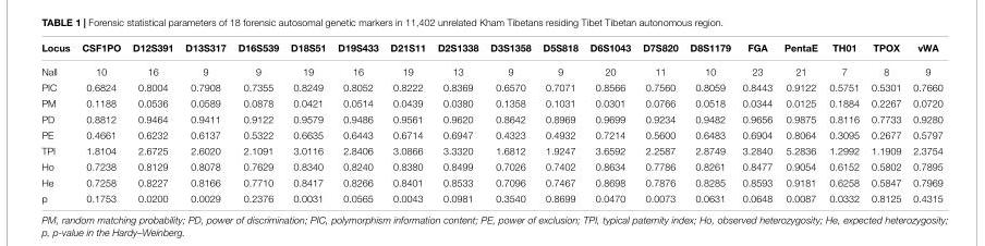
<table><thead><tr><td>Locus</td><td>CSF1PO</td><td>D12S391</td><td>D13S317</td><td>D16S539</td><td>D18S51</td><td>D19S433</td><td>D21S11</td><td>D2S1338</td><td>D3S1358</td><td>D5S818</td><td>D6S1043</td><td>D7S820</td><td>D8S1179</td><td>FGA</td><td>PentaE</td><td>TH01</td><td>TPOX</td><td>vWA</td></tr></thead><tbody><tr><td>Nall</td><td>10</td><td>16</td><td>9</td><td>9</td><td>19</td><td>16</td><td>19</td><td>13</td><td>9</td><td>9</td><td>20</td><td>11</td><td>10</td><td>23</td><td>21</td><td>7</td><td>8</td><td>9</td></tr><tr><td>PIC</td><td>0.6824</td><td>0.8004</td><td>0.7908</td><td>0.7355</td><td>0.8249</td><td>0.8052</td><td>0.8222</td><td>0.8369</td><td>0.6570</td><td>0.7071</td><td>0.8566</td><td>0.7560</td><td>0.8059</td><td>0.8443</td><td>0.9122</td><td>0.5751</td><td>0.5301</td><td>0.7660</td></tr><tr><td>PM</td><td>0.1188</td><td>0.0536</td><td>0.0589</td><td>0.0878</td><td>0.0421</td><td>0.0514</td><td>0.0439</td><td>0.0380</td><td>0.1358</td><td>0.1031</td><td>0.0301</td><td>0.0766</td><td>0.0518</td><td>0.0344</td><td>0.0125</td><td>0.1884</td><td>0.2267</td><td>0.0720</td></tr><tr><td>PD</td><td>0.8812</td><td>0.9464</td><td>0.9411</td><td>0.9122</td><td>0.9579</td><td>0.9486</td><td>0.9561</td><td>0.9620</td><td>0.8642</td><td>0.8969</td><td>0.9699</td><td>0.9234</td><td>0.9482</td><td>0.9656</td><td>0.9875</td><td>0.8116</td><td>0.7733</td><td>0.9280</td></tr><tr><td>PE</td><td>0.4661</td><td>0.6232</td><td>0.6137</td><td>0.5322</td><td>0.6635</td><td>0.6443</td><td>0.6714</td><td>0.6947</td><td>0.4323</td><td>0.4932</td><td>0.7214</td><td>0.5600</td><td>0.6483</td><td>0.6904</td><td>0.8064</td><td>0.3095</td><td>0.2677</td><td>0.5797</td></tr><tr><td>TPI</td><td>1.8104</td><td>2.6725</td><td>2.6020</td><td>2.1091</td><td>3.0116</td><td>2.8406</td><td>3.0866</td><td>3.3320</td><td>1.6812</td><td>1.9247</td><td>3.6592</td><td>2.2587</td><td>2.8749</td><td>3.2840</td><td>5.2836</td><td>1.2992</td><td>1.1909</td><td>2.3754</td></tr><tr><td>Ho</td><td>0.7238</td><td>0.8129</td><td>0.8078</td><td>0.7629</td><td>0.8340</td><td>0.8240</td><td>0.8380</td><td>0.8499</td><td>0.7026</td><td>0.7402</td><td>0.8634</td><td>0.7786</td><td>0.8261</td><td>0.8477</td><td>0.9054</td><td>0.6152</td><td>0.5802</td><td>0.7895</td></tr><tr><td>He</td><td>0.7258</td><td>0.8227</td><td>0.8166</td><td>0.7710</td><td>0.8417</td><td>0.8266</td><td>0.8401</td><td>0.8533</td><td>0.7096</td><td>0.7467</td><td>0.8698</td><td>0.7876</td><td>0.8285</td><td>0.8593</td><td>0.9181</td><td>0.6258</td><td>0.5847</td><td>0.7969</td></tr><tr><td>p</td><td>0.1753</td><td>0.0200</td><td>0.0029</td><td>0.2376</td><td>0.0031</td><td>0.0565</td><td>0.0043</td><td>0.0981</td><td>0.3540</td><td>0.8699</td><td>0.0470</td><td>0.0073</td><td>0.0631</td><td>0.0648</td><td>0.0087</td><td>0.0332</td><td>0.8125</td><td>0.4315</td></tr></tbody></table>